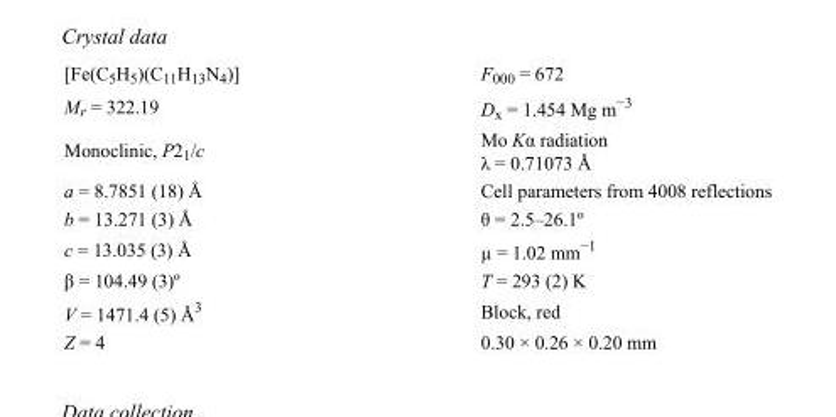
<table><tbody><tr><td>[Fe(C<sub>5</sub>H<sub>5</sub>)(C<sub>11</sub>H<sub>13</sub>N<sub>4</sub>)]</td><td>F000 = 672</td></tr><tr><td>M<sub>r</sub> = 322.19</td><td>D<sub>x</sub> = 1.454 Mg m<sup>−3</sup></td></tr><tr><td>Monoclinic, P2<sub>1</sub>/c</td><td>Mo Kα radiation λ = 0.71073 Å</td></tr><tr><td>a = 8.7851 (18) Å</td><td>Cell parameters from 4008 reflections</td></tr><tr><td>b = 13.271 (3) Å</td><td>θ = 2.5–26.1º</td></tr><tr><td>c = 13.035 (3) Å</td><td>µ = 1.02 mm<sup>−1</sup></td></tr><tr><td>β = 104.49 (3)º</td><td>T = 293 (2) K</td></tr><tr><td>V = 1471.4 (5) Å<sup>3</sup></td><td>Block, red</td></tr><tr><td>Z = 4</td><td>0.30 × 0.26 × 0.20 mm</td></tr></tbody></table>